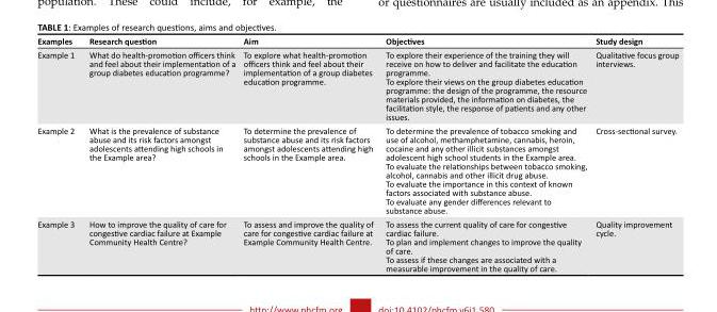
<table><thead><tr><td>Examples</td><td>Research question</td><td>Aim</td><td>Objectives</td><td>Study design</td></tr></thead><tbody><tr><td>Example 1</td><td>What do health-promotion officers think and feel about their implementation of a group diabetes education programme?</td><td>To explore what health-promotion officers think and feel about their implementation of a group diabetes education programme.</td><td>To explore their experience of the training they will receive on how to deliver and facilitate the education programme. To explore their views on the group diabetes education programme: the design of the programme, the resource materials provided, the information on diabetes, the facilitation style, the response of patients and any other issues.</td><td>Qualitative focus group interviews.</td></tr><tr><td>Example 2</td><td>What is the prevalence of substance abuse and its risk factors amongst adolescents attending high schools in the Example area?</td><td>To determine the prevalence of substance abuse and its risk factors amongst adolescents attending high schools in the Example area.</td><td>To determine the prevalence of tobacco smoking and use of alcohol, methamphetamine, cannabis, heroin, cocaine and any other illicit substances amongst adolescent high school students in the Example area. To evaluate the relationships between tobacco smoking, alcohol, cannabis and other illicit drug abuse. To evaluate the importance in this context of known factors associated with substance abuse. To evaluate any gender differences relevant to substance abuse.</td><td>Cross-sectional survey.</td></tr><tr><td>Example 3</td><td>How to improve the quality of care for congestive cardiac failure at Example Community Health Centre?</td><td>To assess and improve the quality of care for congestive cardiac failure at Example Community Health Centre.</td><td>To assess the current quality of care for congestive cardiac failure. To plan and implement changes to improve the quality of care. To assess if these changes are associated with a measurable improvement in the quality of care.</td><td>Quality improvement cycle.</td></tr></tbody></table>